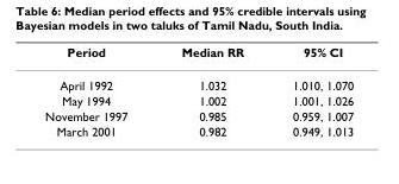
<table><thead><tr><td>Period</td><td>Median RR</td><td>95% CI</td></tr></thead><tbody><tr><td>April 1992</td><td>1.032</td><td>1.010, 1.070</td></tr><tr><td>May 1994</td><td>1.002</td><td>1.001, 1.026</td></tr><tr><td>November 1997</td><td>0.985</td><td>0.959, 1.007</td></tr><tr><td>March 2001</td><td>0.982</td><td>0.949, 1.013</td></tr></tbody></table>